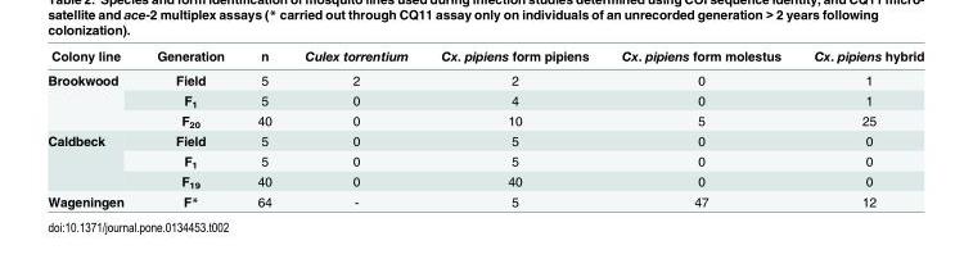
<table><thead><tr><td>Colony line</td><td>Generation</td><td>n</td><td>Culex torrentium</td><td>Cx. pipiens form pipiens</td><td>Cx. pipiens form molestus</td><td>Cx. pipiens hybrid</td></tr></thead><tbody><tr><td rowspan="3">Brookwood</td><td>Field</td><td>5</td><td>2</td><td>2</td><td>0</td><td>1</td></tr><tr><td>F<sub>1</sub></td><td>5</td><td>0</td><td>4</td><td>0</td><td>1</td></tr><tr><td>F<sub>20</sub></td><td>40</td><td>0</td><td>10</td><td>5</td><td>25</td></tr><tr><td rowspan="3">Caldbeck</td><td>Field</td><td>5</td><td>0</td><td>5</td><td>0</td><td>0</td></tr><tr><td>F<sub>1</sub></td><td>5</td><td>0</td><td>5</td><td>0</td><td>0</td></tr><tr><td>F<sub>19</sub></td><td>40</td><td>0</td><td>40</td><td>0</td><td>0</td></tr><tr><td>Wageningen</td><td>F*</td><td>64</td><td>-</td><td>5</td><td>47</td><td>12</td></tr></tbody></table>